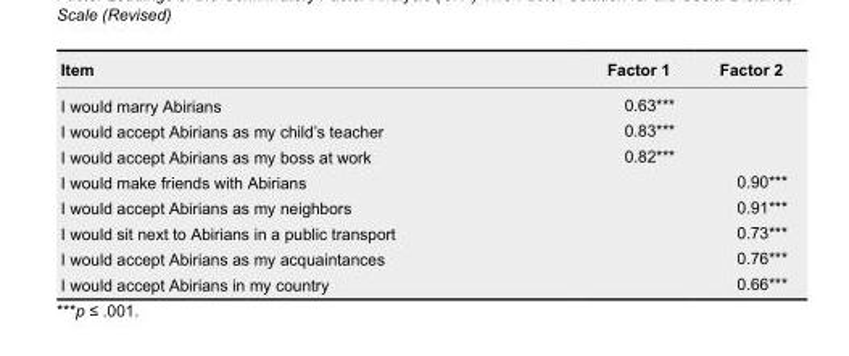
<table><thead><tr><td>Item</td><td>Factor 1</td><td>Factor 2</td></tr></thead><tbody><tr><td>I would marry Abirians</td><td>0.63***</td><td></td></tr><tr><td>I would accept Abirians as my child’s teacher</td><td>0.83***</td><td></td></tr><tr><td>I would accept Abirians as my boss at work</td><td>0.82***</td><td></td></tr><tr><td>I would make friends with Abirians</td><td></td><td>0.90***</td></tr><tr><td>I would accept Abirians as my neighbors</td><td></td><td>0.91***</td></tr><tr><td>I would sit next to Abirians in a public transport</td><td></td><td>0.73***</td></tr><tr><td>I would accept Abirians as my acquaintances</td><td></td><td>0.76***</td></tr><tr><td>I would accept Abirians in my country</td><td></td><td>0.66***</td></tr></tbody></table>